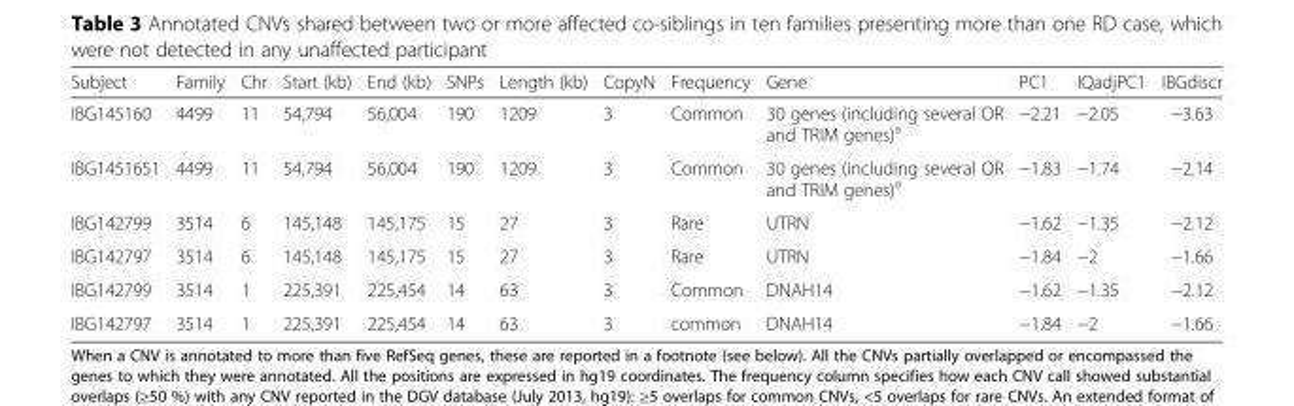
<table><thead><tr><td>Subject</td><td>Family</td><td>Chr</td><td>Start (kb)</td><td>End (kb)</td><td>SNPs</td><td>Length (kb)</td><td>CopyN</td><td>Frequency</td><td>Gene</td><td>PC1</td><td>IQadjPC1</td><td>IBGdiscr</td></tr></thead><tbody><tr><td>IBG145160</td><td>4499</td><td>11</td><td>54,794</td><td>56,004</td><td>190</td><td>1209</td><td>3</td><td>Common</td><td>30 genes (including several OR and TRIM genes)<sup>a</sup></td><td>−2.21</td><td>−2.05</td><td>−3.63</td></tr><tr><td>IBG1451651</td><td>4499</td><td>11</td><td>54,794</td><td>56,004</td><td>190</td><td>1209</td><td>3</td><td>Common</td><td>30 genes (including several OR and TRIM genes)<sup>a</sup></td><td>−1.83</td><td>−1.74</td><td>−2.14</td></tr><tr><td>IBG142799</td><td>3514</td><td>6</td><td>145,148</td><td>145,175</td><td>15</td><td>27</td><td>3</td><td>Rare</td><td>UTRN</td><td>−1.62</td><td>−1.35</td><td>−2.12</td></tr><tr><td>IBG142797</td><td>3514</td><td>6</td><td>145,148</td><td>145,175</td><td>15</td><td>27</td><td>3</td><td>Rare</td><td>UTRN</td><td>−1.84</td><td>−2</td><td>−1.66</td></tr><tr><td>IBG142799</td><td>3514</td><td>1</td><td>225,391</td><td>225,454</td><td>14</td><td>63</td><td>3</td><td>Common</td><td>DNAH14</td><td>−1.62</td><td>−1.35</td><td>−2.12</td></tr><tr><td>IBG142797</td><td>3514</td><td>1</td><td>225,391</td><td>225,454</td><td>14</td><td>63</td><td>3</td><td>common</td><td>DNAH14</td><td>−1.84</td><td>−2</td><td>−1.66</td></tr></tbody></table>